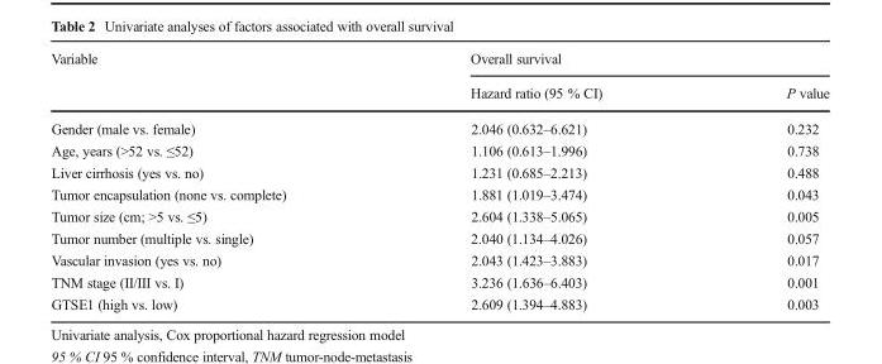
<table><thead><tr><td rowspan="2">Variable</td><td colspan="2">Overall survival</td></tr><tr><td>Hazard ratio (95 % CI)</td><td>P value</td></tr></thead><tbody><tr><td>Gender (male vs. female)</td><td>2.046 (0.632–6.621)</td><td>0.232</td></tr><tr><td>Age, years (&gt;52 vs. ≤52)</td><td>1.106 (0.613–1.996)</td><td>0.738</td></tr><tr><td>Liver cirrhosis (yes vs. no)</td><td>1.231 (0.685–2.213)</td><td>0.488</td></tr><tr><td>Tumor encapsulation (none vs. complete)</td><td>1.881 (1.019–3.474)</td><td>0.043</td></tr><tr><td>Tumor size (cm; &gt;5 vs. ≤5)</td><td>2.604 (1.338–5.065)</td><td>0.005</td></tr><tr><td>Tumor number (multiple vs. single)</td><td>2.040 (1.134–4.026)</td><td>0.057</td></tr><tr><td>Vascular invasion (yes vs. no)</td><td>2.043 (1.423–3.883)</td><td>0.017</td></tr><tr><td>TNM stage (II/III vs. I)</td><td>3.236 (1.636–6.403)</td><td>0.001</td></tr><tr><td>GTSE1 (high vs. low)</td><td>2.609 (1.394–4.883)</td><td>0.003</td></tr></tbody></table>